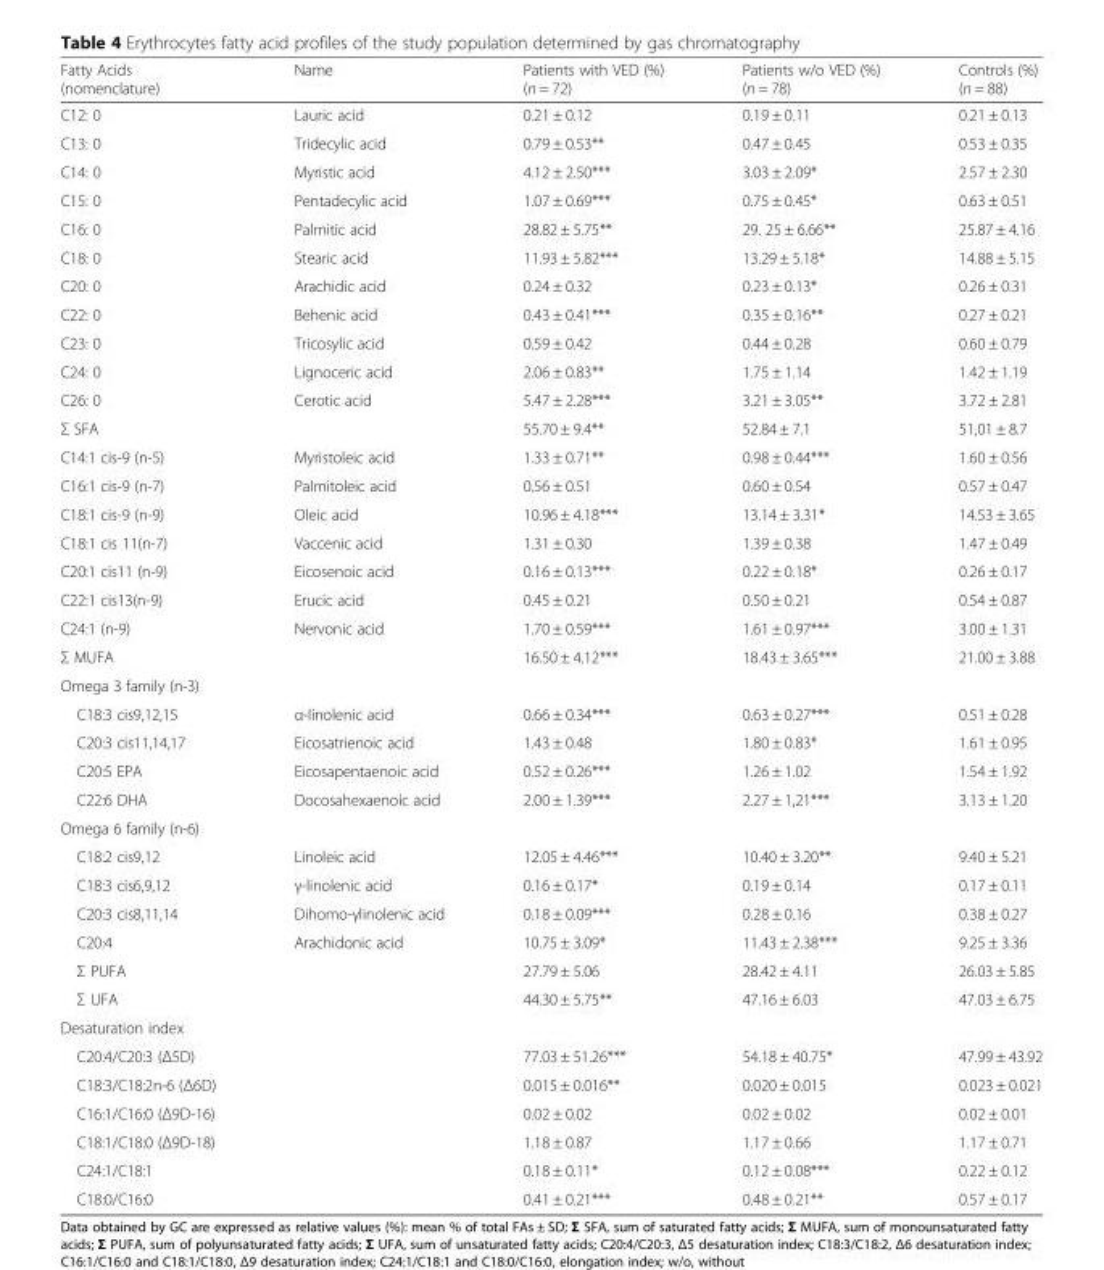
<table><thead><tr><td>Fatty Acids (nomenclature)</td><td>Name</td><td>Patients with VED (%) (n = 72)</td><td>Patients w/o VED (%) (n = 78)</td><td>Controls (%) (n = 88)</td></tr></thead><tbody><tr><td>C12: 0</td><td>Lauric acid</td><td>0.21 ± 0.12</td><td>0.19 ± 0.11</td><td>0.21 ± 0.13</td></tr><tr><td>C13: 0</td><td>Tridecylic acid</td><td>0.79 ± 0.53**</td><td>0.47 ± 0.45</td><td>0.53 ± 0.35</td></tr><tr><td>C14: 0</td><td>Myristic acid</td><td>4.12 ± 2.50***</td><td>3.03 ± 2.09*</td><td>2.57 ± 2.30</td></tr><tr><td>C15: 0</td><td>Pentadecylic acid</td><td>1.07 ± 0.69***</td><td>0.75 ± 0.45*</td><td>0.63 ± 0.51</td></tr><tr><td>C16: 0</td><td>Palmitic acid</td><td>28.82 ± 5.75**</td><td>29. 25 ± 6.66**</td><td>25.87 ± 4.16</td></tr><tr><td>C18: 0</td><td>Stearic acid</td><td>11.93 ± 5.82***</td><td>13.29 ± 5.18*</td><td>14.88 ± 5.15</td></tr><tr><td>C20: 0</td><td>Arachidic acid</td><td>0.24 ± 0.32</td><td>0.23 ± 0.13*</td><td>0.26 ± 0.31</td></tr><tr><td>C22: 0</td><td>Behenic acid</td><td>0.43 ± 0.41***</td><td>0.35 ± 0.16**</td><td>0.27 ± 0.21</td></tr><tr><td>C23: 0</td><td>Tricosylic acid</td><td>0.59 ± 0.42</td><td>0.44 ± 0.28</td><td>0.60 ± 0.79</td></tr><tr><td>C24: 0</td><td>Lignoceric acid</td><td>2.06 ± 0.83**</td><td>1.75 ± 1.14</td><td>1.42 ± 1.19</td></tr><tr><td>C26: 0</td><td>Cerotic acid</td><td>5.47 ± 2.28***</td><td>3.21 ± 3.05**</td><td>3.72 ± 2.81</td></tr><tr><td>Σ SFA</td><td></td><td>55.70 ± 9.4**</td><td>52.84 ± 7.1</td><td>51,01 ± 8.7</td></tr><tr><td>C14:1 cis-9 (n-5)</td><td>Myristoleic acid</td><td>1.33 ± 0.71**</td><td>0.98 ± 0.44***</td><td>1.60 ± 0.56</td></tr><tr><td>C16:1 cis-9 (n-7)</td><td>Palmitoleic acid</td><td>0.56 ± 0.51</td><td>0.60 ± 0.54</td><td>0.57 ± 0.47</td></tr><tr><td>C18:1 cis-9 (n-9)</td><td>Oleic acid</td><td>10.96 ± 4.18***</td><td>13.14 ± 3.31*</td><td>14.53 ± 3.65</td></tr><tr><td>C18:1 cis 11(n-7)</td><td>Vaccenic acid</td><td>1.31 ± 0.30</td><td>1.39 ± 0.38</td><td>1.47 ± 0.49</td></tr><tr><td>C20:1 cis11 (n-9)</td><td>Eicosenoic acid</td><td>0.16 ± 0.13***</td><td>0.22 ± 0.18*</td><td>0.26 ± 0.17</td></tr><tr><td>C22:1 cis13(n-9)</td><td>Erucic acid</td><td>0.45 ± 0.21</td><td>0.50 ± 0.21</td><td>0.54 ± 0.87</td></tr><tr><td>C24:1 (n-9)</td><td>Nervonic acid</td><td>1.70 ± 0.59***</td><td>1.61 ± 0.97***</td><td>3.00 ± 1.31</td></tr><tr><td>Σ MUFA</td><td></td><td>16.50 ± 4.12***</td><td>18.43 ± 3.65***</td><td>21.00 ± 3.88</td></tr><tr><td colspan="5">Omega 3 family (n-3)</td></tr><tr><td>C18:3 cis9,12,15</td><td>α-linolenic acid</td><td>0.66 ± 0.34***</td><td>0.63 ± 0.27***</td><td>0.51 ± 0.28</td></tr><tr><td>C20:3 cis11,14,17</td><td>Eicosatrienoic acid</td><td>1.43 ± 0.48</td><td>1.80 ± 0.83*</td><td>1.61 ± 0.95</td></tr><tr><td>C20:5 EPA</td><td>Eicosapentaenoic acid</td><td>0.52 ± 0.26***</td><td>1.26 ± 1.02</td><td>1.54 ± 1.92</td></tr><tr><td>C22:6 DHA</td><td>Docosahexaenoic acid</td><td>2.00 ± 1.39***</td><td>2.27 ± 1,21***</td><td>3.13 ± 1.20</td></tr><tr><td colspan="5">Omega 6 family (n-6)</td></tr><tr><td>C18:2 cis9,12</td><td>Linoleic acid</td><td>12.05 ± 4.46***</td><td>10.40 ± 3.20**</td><td>9.40 ± 5.21</td></tr><tr><td>C18:3 cis6,9,12</td><td>γ-linolenic acid</td><td>0.16 ± 0.17*</td><td>0.19 ± 0.14</td><td>0.17 ± 0.11</td></tr><tr><td>C20:3 cis8,11,14</td><td>Dihomo-γlinolenic acid</td><td>0.18 ± 0.09***</td><td>0.28 ± 0.16</td><td>0.38 ± 0.27</td></tr><tr><td>C20:4</td><td>Arachidonic acid</td><td>10.75 ± 3.09*</td><td>11.43 ± 2.38***</td><td>9.25 ± 3.36</td></tr><tr><td>Σ PUFA</td><td></td><td>27.79 ± 5.06</td><td>28.42 ± 4.11</td><td>26.03 ± 5.85</td></tr><tr><td>Σ UFA</td><td></td><td>44.30 ± 5.75**</td><td>47.16 ± 6.03</td><td>47.03 ± 6.75</td></tr><tr><td colspan="5">Desaturation index</td></tr><tr><td>C20:4/C20:3 (Δ5D)</td><td></td><td>77.03 ± 51.26***</td><td>54.18 ± 40.75*</td><td>47.99 ± 43.92</td></tr><tr><td>C18:3/C18:2n-6 (Δ6D)</td><td></td><td>0.015 ± 0.016**</td><td>0.020 ± 0.015</td><td>0.023 ± 0.021</td></tr><tr><td>C16:1/C16:0 (Δ9D-16)</td><td></td><td>0.02 ± 0.02</td><td>0.02 ± 0.02</td><td>0.02 ± 0.01</td></tr><tr><td>C18:1/C18:0 (Δ9D-18)</td><td></td><td>1.18 ± 0.87</td><td>1.17 ± 0.66</td><td>1.17 ± 0.71</td></tr><tr><td>C24:1/C18:1</td><td></td><td>0.18 ± 0.11*</td><td>0.12 ± 0.08***</td><td>0.22 ± 0.12</td></tr><tr><td>C18:0/C16:0</td><td></td><td>0.41 ± 0.21***</td><td>0.48 ± 0.21**</td><td>0.57 ± 0.17</td></tr></tbody></table>